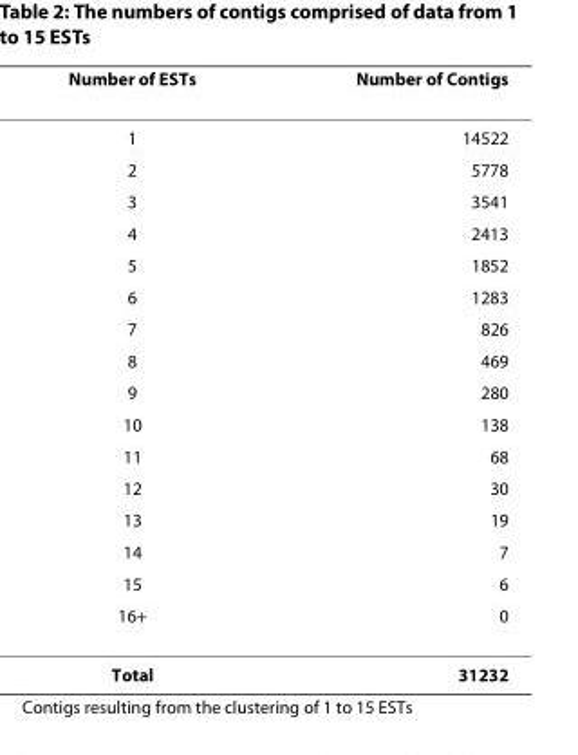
<table><thead><tr><td>Number of ESTs</td><td>Number of Contigs</td></tr></thead><tbody><tr><td>1</td><td>14522</td></tr><tr><td>2</td><td>5778</td></tr><tr><td>3</td><td>3541</td></tr><tr><td>4</td><td>2413</td></tr><tr><td>5</td><td>1852</td></tr><tr><td>6</td><td>1283</td></tr><tr><td>7</td><td>826</td></tr><tr><td>8</td><td>469</td></tr><tr><td>9</td><td>280</td></tr><tr><td>10</td><td>138</td></tr><tr><td>11</td><td>68</td></tr><tr><td>12</td><td>30</td></tr><tr><td>13</td><td>19</td></tr><tr><td>14</td><td>7</td></tr><tr><td>15</td><td>6</td></tr><tr><td>16+</td><td>0</td></tr><tr><td>Total</td><td>31232</td></tr></tbody></table>